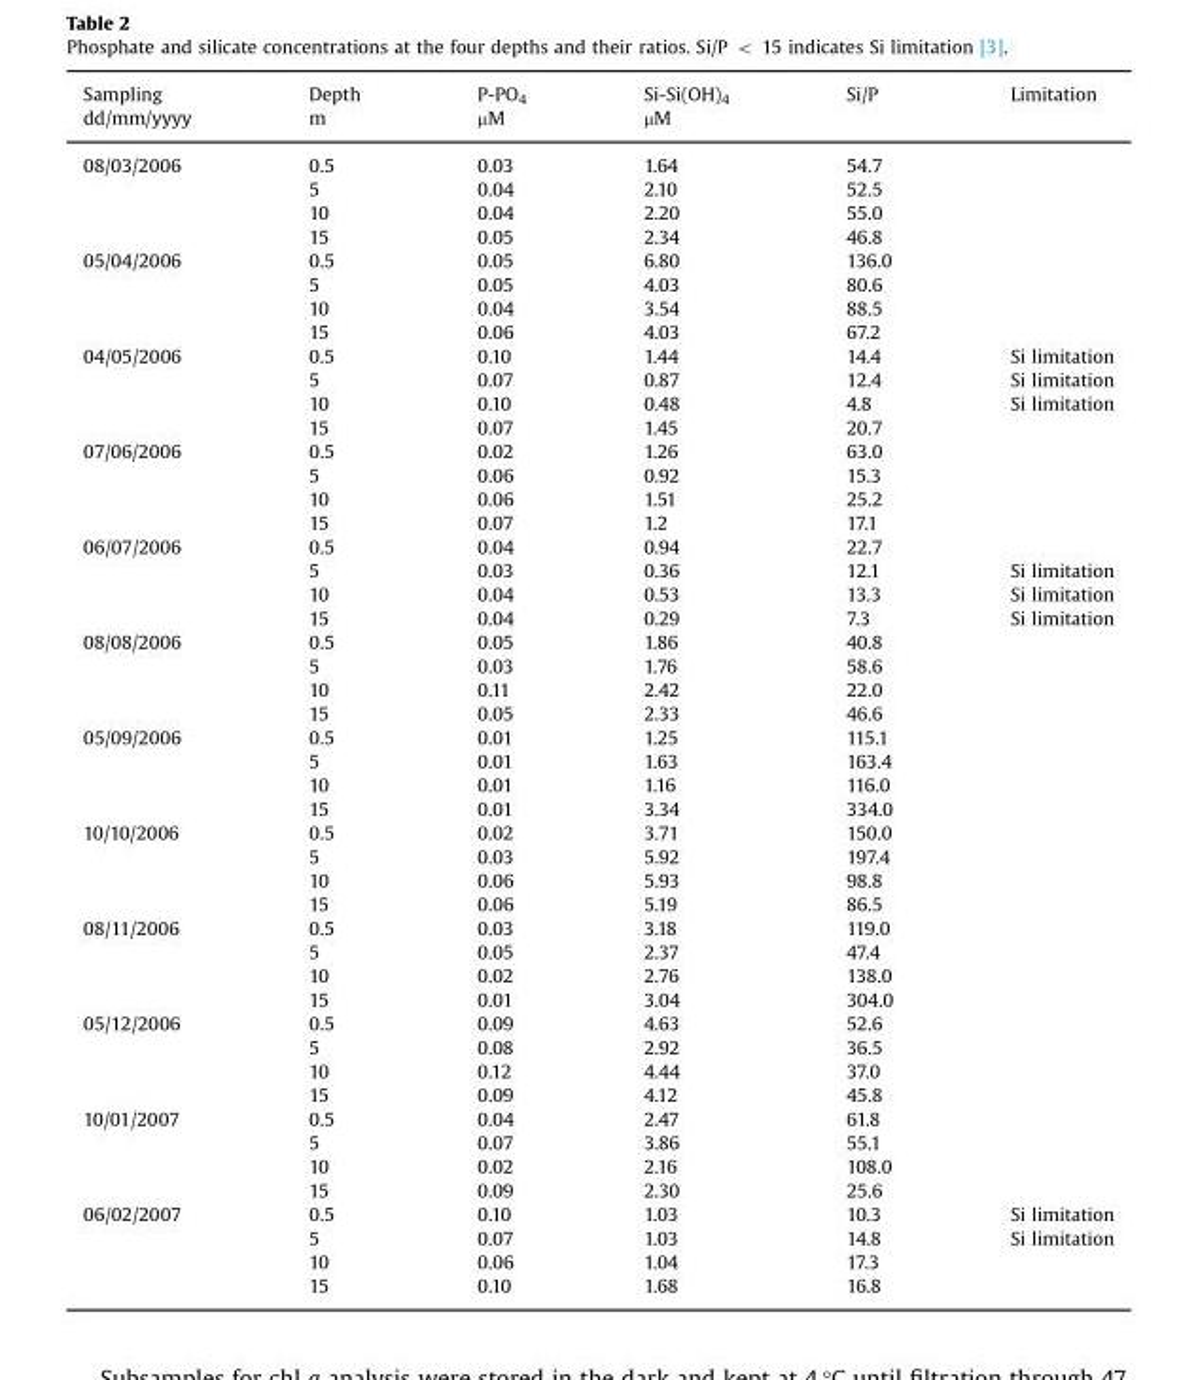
<table><thead><tr><td rowspan="2">Sampling dd/mm/yyyy</td><td rowspan="2">Depth m</td><td rowspan="2">P-PO<sub>4</sub> µM</td><td rowspan="2">Si-Si(OH)<sub>4</sub> µM</td><td rowspan="2">Si/P</td><td rowspan="2">Limitation</td></tr><tr></tr></thead><tbody><tr><td rowspan="4">08/03/2006</td><td>0.5</td><td>0.03</td><td>1.64</td><td>54.7</td><td></td></tr><tr><td>5</td><td>0.04</td><td>2.10</td><td>52.5</td><td></td></tr><tr><td>10</td><td>0.04</td><td>2.20</td><td>55.0</td><td></td></tr><tr><td>15</td><td>0.05</td><td>2.34</td><td>46.8</td><td></td></tr><tr><td rowspan="4">05/04/2006</td><td>0.5</td><td>0.05</td><td>6.80</td><td>136.0</td><td></td></tr><tr><td>5</td><td>0.05</td><td>4.03</td><td>80.6</td><td></td></tr><tr><td>10</td><td>0.04</td><td>3.54</td><td>88.5</td><td></td></tr><tr><td>15</td><td>0.06</td><td>4.03</td><td>67.2</td><td></td></tr><tr><td rowspan="4">04/05/2006</td><td>0.5</td><td>0.10</td><td>1.44</td><td>14.4</td><td>Si limitation</td></tr><tr><td>5</td><td>0.07</td><td>0.87</td><td>12.4</td><td>Si limitation</td></tr><tr><td>10</td><td>0.10</td><td>0.48</td><td>4.8</td><td>Si limitation</td></tr><tr><td>15</td><td>0.07</td><td>1.45</td><td>20.7</td><td></td></tr><tr><td rowspan="4">07/06/2006</td><td>0.5</td><td>0.02</td><td>1.26</td><td>63.0</td><td></td></tr><tr><td>5</td><td>0.06</td><td>0.92</td><td>15.3</td><td></td></tr><tr><td>10</td><td>0.06</td><td>1.51</td><td>25.2</td><td></td></tr><tr><td>15</td><td>0.07</td><td>1.2</td><td>17.1</td><td></td></tr><tr><td rowspan="4">06/07/2006</td><td>0.5</td><td>0.04</td><td>0.94</td><td>22.7</td><td></td></tr><tr><td>5</td><td>0.03</td><td>0.36</td><td>12.1</td><td>Si limitation</td></tr><tr><td>10</td><td>0.04</td><td>0.53</td><td>13.3</td><td>Si limitation</td></tr><tr><td>15</td><td>0.04</td><td>0.29</td><td>7.3</td><td>Si limitation</td></tr><tr><td rowspan="4">08/08/2006</td><td>0.5</td><td>0.05</td><td>1.86</td><td>40.8</td><td></td></tr><tr><td>5</td><td>0.03</td><td>1.76</td><td>58.6</td><td></td></tr><tr><td>10</td><td>0.11</td><td>2.42</td><td>22.0</td><td></td></tr><tr><td>15</td><td>0.05</td><td>2.33</td><td>46.6</td><td></td></tr><tr><td rowspan="4">05/09/2006</td><td>0.5</td><td>0.01</td><td>1.25</td><td>115.1</td><td></td></tr><tr><td>5</td><td>0.01</td><td>1.63</td><td>163.4</td><td></td></tr><tr><td>10</td><td>0.01</td><td>1.16</td><td>116.0</td><td></td></tr><tr><td>15</td><td>0.01</td><td>3.34</td><td>334.0</td><td></td></tr><tr><td rowspan="4">10/10/2006</td><td>0.5</td><td>0.02</td><td>3.71</td><td>150.0</td><td></td></tr><tr><td>5</td><td>0.03</td><td>5.92</td><td>197.4</td><td></td></tr><tr><td>10</td><td>0.06</td><td>5.93</td><td>98.8</td><td></td></tr><tr><td>15</td><td>0.06</td><td>5.19</td><td>86.5</td><td></td></tr><tr><td rowspan="4">08/11/2006</td><td>0.5</td><td>0.03</td><td>3.18</td><td>119.0</td><td></td></tr><tr><td>5</td><td>0.05</td><td>2.37</td><td>47.4</td><td></td></tr><tr><td>10</td><td>0.02</td><td>2.76</td><td>138.0</td><td></td></tr><tr><td>15</td><td>0.01</td><td>3.04</td><td>304.0</td><td></td></tr><tr><td rowspan="4">05/12/2006</td><td>0.5</td><td>0.09</td><td>4.63</td><td>52.6</td><td></td></tr><tr><td>5</td><td>0.08</td><td>2.92</td><td>36.5</td><td></td></tr><tr><td>10</td><td>0.12</td><td>4.44</td><td>37.0</td><td></td></tr><tr><td>15</td><td>0.09</td><td>4.12</td><td>45.8</td><td></td></tr><tr><td rowspan="4">10/01/2007</td><td>0.5</td><td>0.04</td><td>2.47</td><td>61.8</td><td></td></tr><tr><td>5</td><td>0.07</td><td>3.86</td><td>55.1</td><td></td></tr><tr><td>10</td><td>0.02</td><td>2.16</td><td>108.0</td><td></td></tr><tr><td>15</td><td>0.09</td><td>2.30</td><td>25.6</td><td></td></tr><tr><td rowspan="4">06/02/2007</td><td>0.5</td><td>0.10</td><td>1.03</td><td>10.3</td><td>Si limitation</td></tr><tr><td>5</td><td>0.07</td><td>1.03</td><td>14.8</td><td>Si limitation</td></tr><tr><td>10</td><td>0.06</td><td>1.04</td><td>17.3</td><td></td></tr><tr><td>15</td><td>0.10</td><td>1.68</td><td>16.8</td><td></td></tr></tbody></table>